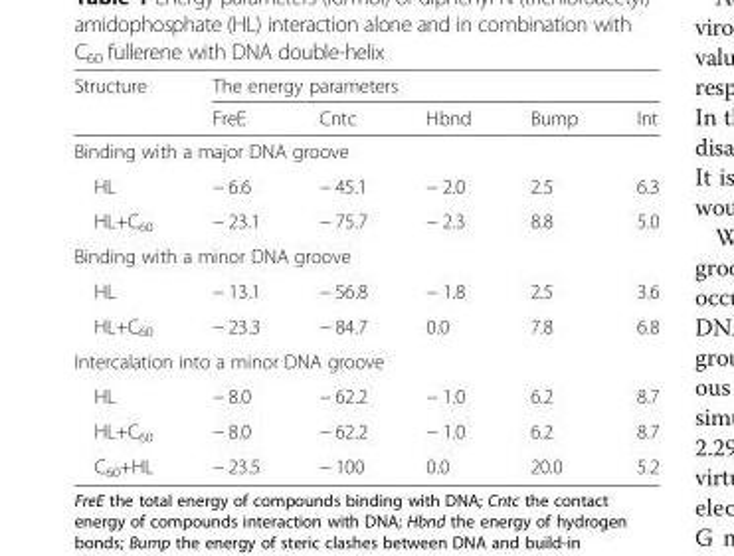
<table><thead><tr><td rowspan="2">Structure</td><td colspan="5">The energy parameters</td></tr><tr><td>FreE</td><td>Cntc</td><td>Hbnd</td><td>Bump</td><td>Int</td></tr></thead><tbody><tr><td colspan="6">Binding with a major DNA groove</td></tr><tr><td>HL</td><td>− 6.6</td><td>− 45.1</td><td>− 2.0</td><td>2.5</td><td>6.3</td></tr><tr><td>HL+С<sub>60</sub></td><td>− 23.1</td><td>− 75.7</td><td>− 2.3</td><td>8.8</td><td>5.0</td></tr><tr><td colspan="6">Binding with a minor DNA groove</td></tr><tr><td>HL</td><td>− 13.1</td><td>− 56.8</td><td>− 1.8</td><td>2.5</td><td>3.6</td></tr><tr><td>HL+С<sub>60</sub></td><td>− 23.3</td><td>− 84.7</td><td>0.0</td><td>7.8</td><td>6.8</td></tr><tr><td colspan="6">Intercalation into a minor DNA groove</td></tr><tr><td>HL</td><td>− 8.0</td><td>− 62.2</td><td>− 1.0</td><td>6.2</td><td>8.7</td></tr><tr><td>HL+С<sub>60</sub></td><td>− 8.0</td><td>− 62.2</td><td>− 1.0</td><td>6.2</td><td>8.7</td></tr><tr><td>С<sub>60</sub>+HL</td><td>− 23.5</td><td>− 100</td><td>0.0</td><td>20.0</td><td>5.2</td></tr></tbody></table>